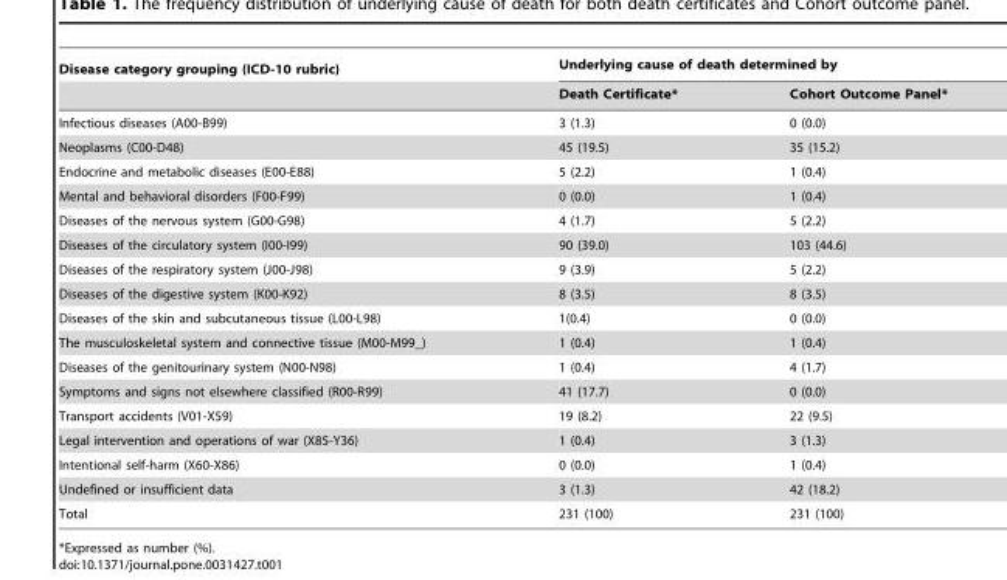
<table><thead><tr><td rowspan="2">Disease category grouping (ICD-10 rubric)</td><td colspan="2">Underlying cause of death determined by</td></tr><tr><td>Death Certificate*</td><td>Cohort Outcome Panel*</td></tr></thead><tbody><tr><td>Infectious diseases (A00-B99)</td><td>3 (1.3)</td><td>0 (0.0)</td></tr><tr><td>Neoplasms (C00-D48)</td><td>45 (19.5)</td><td>35 (15.2)</td></tr><tr><td>Endocrine and metabolic diseases (E00-E88)</td><td>5 (2.2)</td><td>1 (0.4)</td></tr><tr><td>Mental and behavioral disorders (F00-F99)</td><td>0 (0.0)</td><td>1 (0.4)</td></tr><tr><td>Diseases of the nervous system (G00-G98)</td><td>4 (1.7)</td><td>5 (2.2)</td></tr><tr><td>Diseases of the circulatory system (I00-I99)</td><td>90 (39.0)</td><td>103 (44.6)</td></tr><tr><td>Diseases of the respiratory system (J00-J98)</td><td>9 (3.9)</td><td>5 (2.2)</td></tr><tr><td>Diseases of the digestive system (K00-K92)</td><td>8 (3.5)</td><td>8 (3.5)</td></tr><tr><td>Diseases of the skin and subcutaneous tissue (L00-L98)</td><td>1(0.4)</td><td>0 (0.0)</td></tr><tr><td>The musculoskeletal system and connective tissue (M00-M99_)</td><td>1 (0.4)</td><td>1 (0.4)</td></tr><tr><td>Diseases of the genitourinary system (N00-N98)</td><td>1 (0.4)</td><td>4 (1.7)</td></tr><tr><td>Symptoms and signs not elsewhere classified (R00-R99)</td><td>41 (17.7)</td><td>0 (0.0)</td></tr><tr><td>Transport accidents (V01-X59)</td><td>19 (8.2)</td><td>22 (9.5)</td></tr><tr><td>Legal intervention and operations of war (X85-Y36)</td><td>1 (0.4)</td><td>3 (1.3)</td></tr><tr><td>Intentional self-harm (X60-X86)</td><td>0 (0.0)</td><td>1 (0.4)</td></tr><tr><td>Undefined or insufficient data</td><td>3 (1.3)</td><td>42 (18.2)</td></tr><tr><td>Total</td><td>231 (100)</td><td>231 (100)</td></tr></tbody></table>